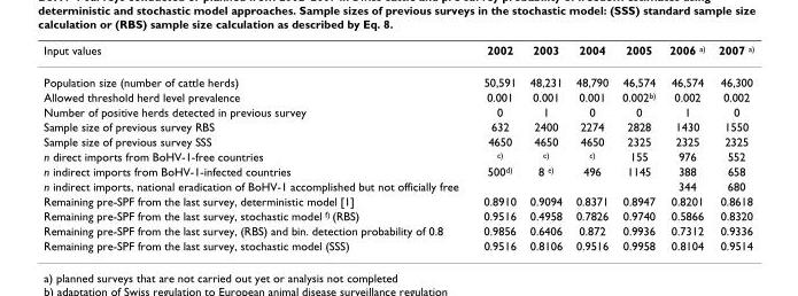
<table><thead><tr><td>Input values</td><td>2002</td><td>2003</td><td>2004</td><td>2005</td><td>2006 a)</td><td>2007 a)</td></tr></thead><tbody><tr><td>Population size (number of cattle herds)</td><td>50,591</td><td>48,231</td><td>48,790</td><td>46,574</td><td>46,574</td><td>46,300</td></tr><tr><td>Allowed threshold herd level prevalence</td><td>0.001</td><td>0.001</td><td>0.001</td><td>0.002b)</td><td>0.002</td><td>0.002</td></tr><tr><td>Number of positive herds detected in previous survey</td><td>0</td><td>1</td><td>0</td><td>0</td><td>1</td><td>0</td></tr><tr><td>Sample size of previous survey RBS</td><td>632</td><td>2400</td><td>2274</td><td>2828</td><td>1430</td><td>1550</td></tr><tr><td>Sample size of previous survey SSS</td><td>4650</td><td>4650</td><td>4650</td><td>2325</td><td>2325</td><td>2325</td></tr><tr><td>n direct imports from BoHV-1-free countries</td><td>c)</td><td>c)</td><td>c)</td><td>155</td><td>976</td><td>552</td></tr><tr><td>n indirect imports from BoHV-1-infected countries</td><td>500d)</td><td>8 e)</td><td>496</td><td>1145</td><td>388</td><td>658</td></tr><tr><td>n indirect imports, national eradication of BoHV-1 accomplished but not officially free</td><td></td><td></td><td></td><td></td><td>344</td><td>680</td></tr><tr><td>Remaining pre-SPF from the last survey, deterministic model [1]</td><td>0.8910</td><td>0.9094</td><td>0.8371</td><td>0.8947</td><td>0.8201</td><td>0.8618</td></tr><tr><td>Remaining pre-SPF from the last survey, stochastic model f) (RBS)</td><td>0.9516</td><td>0.4958</td><td>0.7826</td><td>0.9740</td><td>0.5866</td><td>0.8320</td></tr><tr><td>Remaining pre-SPF from the last survey, (RBS) and bin. detection probability of 0.8</td><td>0.9856</td><td>0.6406</td><td>0.872</td><td>0.9936</td><td>0.7312</td><td>0.9336</td></tr><tr><td>Remaining pre-SPF from the last survey, stochastic model (SSS)</td><td>0.9516</td><td>0.8106</td><td>0.9516</td><td>0.9958</td><td>0.8104</td><td>0.9514</td></tr></tbody></table>